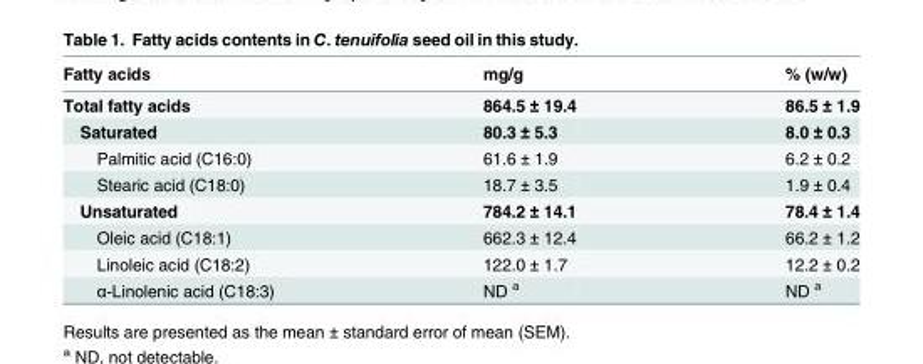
<table><thead><tr><td>Fatty acids</td><td>mg/g</td><td>% (w/w)</td></tr></thead><tbody><tr><td>Total fatty acids</td><td>864.5 ± 19.4</td><td>86.5 ± 1.9</td></tr><tr><td>Saturated</td><td>80.3 ± 5.3</td><td>8.0 ± 0.3</td></tr><tr><td>Palmitic acid (C16:0)</td><td>61.6 ± 1.9</td><td>6.2 ± 0.2</td></tr><tr><td>Stearic acid (C18:0)</td><td>18.7 ± 3.5</td><td>1.9 ± 0.4</td></tr><tr><td>Unsaturated</td><td>784.2 ± 14.1</td><td>78.4 ± 1.4</td></tr><tr><td>Oleic acid (C18:1)</td><td>662.3 ± 12.4</td><td>66.2 ± 1.2</td></tr><tr><td>Linoleic acid (C18:2)</td><td>122.0 ± 1.7</td><td>12.2 ± 0.2</td></tr><tr><td>α-Linolenic acid (C18:3)</td><td>ND <sup>a</sup></td><td>ND <sup>a</sup></td></tr></tbody></table>